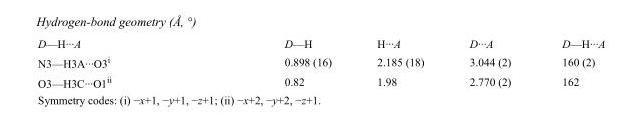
<table><tbody><tr><td>D—H···A</td><td>D—H</td><td>H···A</td><td>D···A</td><td>D—H···A</td></tr><tr><td>N3—H3A···O3<sup>i</sup></td><td>0.898 (16)</td><td>2.185 (18)</td><td>3.044 (2)</td><td>160 (2)</td></tr><tr><td>O3—H3C···O1<sup>ii</sup></td><td>0.82</td><td>1.98</td><td>2.770 (2)</td><td>162</td></tr></tbody></table>